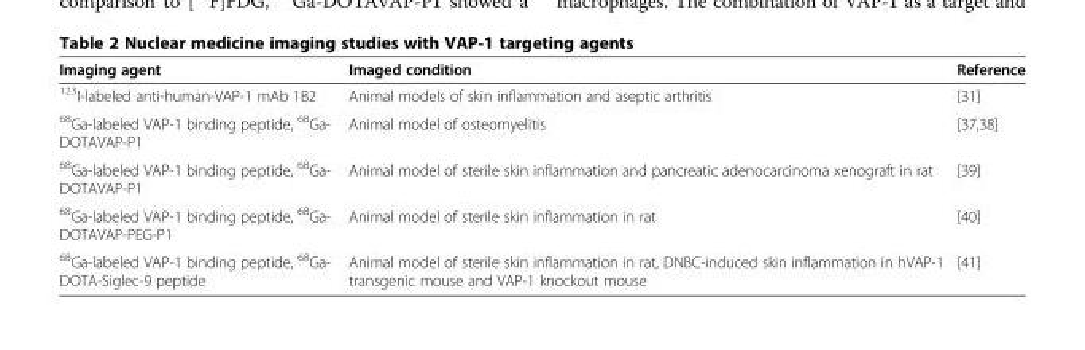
<table><thead><tr><td>Imaging agent</td><td>Imaged condition</td><td>Reference</td></tr></thead><tbody><tr><td><sup>123</sup>I-labeled anti-human-VAP-1 mAb 1B2</td><td>Animal models of skin inflammation and aseptic arthritis</td><td>[31]</td></tr><tr><td><sup>68</sup>Ga-labeled VAP-1 binding peptide, <sup>68</sup>Ga- DOTAVAP-P1</td><td>Animal model of osteomyelitis</td><td>[37,38]</td></tr><tr><td><sup>68</sup>Ga-labeled VAP-1 binding peptide, <sup>68</sup>Ga- DOTAVAP-P1</td><td>Animal model of sterile skin inflammation and pancreatic adenocarcinoma xenograft in rat</td><td>[39]</td></tr><tr><td><sup>68</sup>Ga-labeled VAP-1 binding peptide, <sup>68</sup>Ga- DOTAVAP-PEG-P1</td><td>Animal model of sterile skin inflammation in rat</td><td>[40]</td></tr><tr><td><sup>68</sup>Ga-labeled VAP-1 binding peptide, <sup>68</sup>Ga- DOTA-Siglec-9 peptide</td><td>Animal model of sterile skin inflammation in rat, DNBC-induced skin inflammation in hVAP-1 transgenic mouse and VAP-1 knockout mouse</td><td>[41]</td></tr></tbody></table>